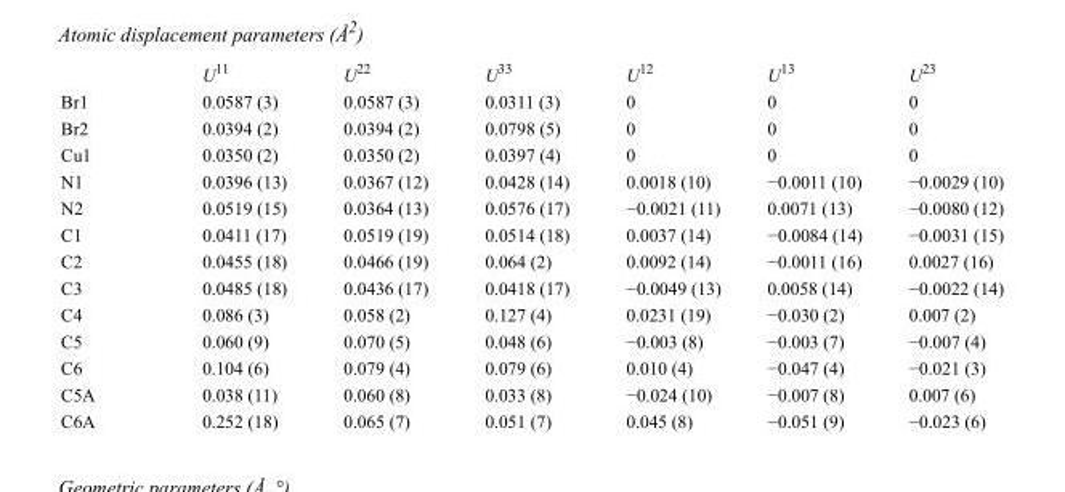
<table><thead><tr><td></td><td>U<sup>11</sup></td><td>U<sup>22</sup></td><td>U<sup>33</sup></td><td>U<sup>12</sup></td><td>U<sup>13</sup></td><td>U<sup>23</sup></td></tr></thead><tbody><tr><td>Br1</td><td>0.0587 (3)</td><td>0.0587 (3)</td><td>0.0311 (3)</td><td>0</td><td>0</td><td>0</td></tr><tr><td>Br2</td><td>0.0394 (2)</td><td>0.0394 (2)</td><td>0.0798 (5)</td><td>0</td><td>0</td><td>0</td></tr><tr><td>Cu1</td><td>0.0350 (2)</td><td>0.0350 (2)</td><td>0.0397 (4)</td><td>0</td><td>0</td><td>0</td></tr><tr><td>N1</td><td>0.0396 (13)</td><td>0.0367 (12)</td><td>0.0428 (14)</td><td>0.0018 (10)</td><td>−0.0011 (10)</td><td>−0.0029 (10)</td></tr><tr><td>N2</td><td>0.0519 (15)</td><td>0.0364 (13)</td><td>0.0576 (17)</td><td>−0.0021 (11)</td><td>0.0071 (13)</td><td>−0.0080 (12)</td></tr><tr><td>C1</td><td>0.0411 (17)</td><td>0.0519 (19)</td><td>0.0514 (18)</td><td>0.0037 (14)</td><td>−0.0084 (14)</td><td>−0.0031 (15)</td></tr><tr><td>C2</td><td>0.0455 (18)</td><td>0.0466 (19)</td><td>0.064 (2)</td><td>0.0092 (14)</td><td>−0.0011 (16)</td><td>0.0027 (16)</td></tr><tr><td>C3</td><td>0.0485 (18)</td><td>0.0436 (17)</td><td>0.0418 (17)</td><td>−0.0049 (13)</td><td>0.0058 (14)</td><td>−0.0022 (14)</td></tr><tr><td>C4</td><td>0.086 (3)</td><td>0.058 (2)</td><td>0.127 (4)</td><td>0.0231 (19)</td><td>−0.030 (2)</td><td>0.007 (2)</td></tr><tr><td>C5</td><td>0.060 (9)</td><td>0.070 (5)</td><td>0.048 (6)</td><td>−0.003 (8)</td><td>−0.003 (7)</td><td>−0.007 (4)</td></tr><tr><td>C6</td><td>0.104 (6)</td><td>0.079 (4)</td><td>0.079 (6)</td><td>0.010 (4)</td><td>−0.047 (4)</td><td>−0.021 (3)</td></tr><tr><td>C5A</td><td>0.038 (11)</td><td>0.060 (8)</td><td>0.033 (8)</td><td>−0.024 (10)</td><td>−0.007 (8)</td><td>0.007 (6)</td></tr><tr><td>C6A</td><td>0.252 (18)</td><td>0.065 (7)</td><td>0.051 (7)</td><td>0.045 (8)</td><td>−0.051 (9)</td><td>−0.023 (6)</td></tr></tbody></table>